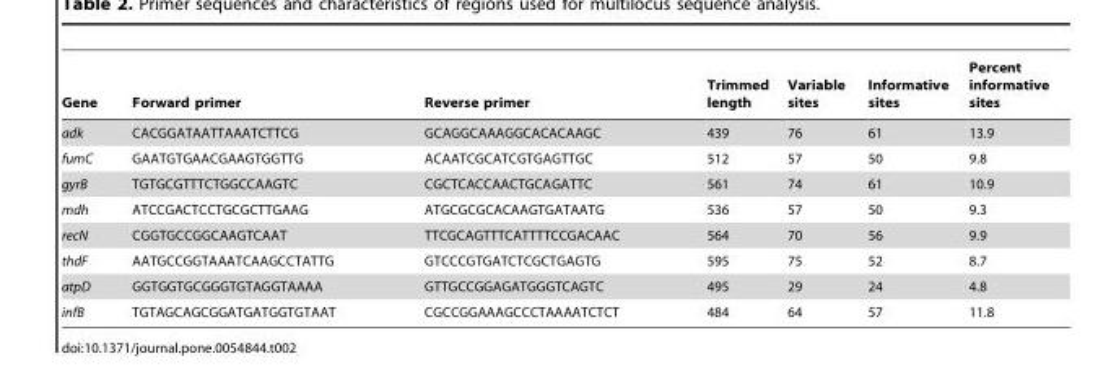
<table><thead><tr><td>Gene</td><td>Forward primer</td><td>Reverse primer</td><td>Trimmed length</td><td>Variable sites</td><td>Informative sites</td><td>Percent informative sites</td></tr></thead><tbody><tr><td>adk</td><td>CACGGATAATTAAATCTTCG</td><td>GCAGGCAAAGGCACACAAGC</td><td>439</td><td>76</td><td>61</td><td>13.9</td></tr><tr><td>fumC</td><td>GAATGTGAACGAAGTGGTTG</td><td>ACAATCGCATCGTGAGTTGC</td><td>512</td><td>57</td><td>50</td><td>9.8</td></tr><tr><td>gyrB</td><td>TGTGCGTTTCTGGCCAAGTC</td><td>CGCTCACCAACTGCAGATTC</td><td>561</td><td>74</td><td>61</td><td>10.9</td></tr><tr><td>mdh</td><td>ATCCGACTCCTGCGCTTGAAG</td><td>ATGCGCGCACAAGTGATAATG</td><td>536</td><td>57</td><td>50</td><td>9.3</td></tr><tr><td>recN</td><td>CGGTGCCGGCAAGTCAAT</td><td>TTCGCAGTTTCATTTTCCGACAAC</td><td>564</td><td>70</td><td>56</td><td>9.9</td></tr><tr><td>thdF</td><td>AATGCCGGTAAATCAAGCCTATTG</td><td>GTCCCGTGATCTCGCTGAGTG</td><td>595</td><td>75</td><td>52</td><td>8.7</td></tr><tr><td>atpD</td><td>GGTGGTGCGGGTGTAGGTAAAA</td><td>GTTGCCGGAGATGGGTCAGTC</td><td>495</td><td>29</td><td>24</td><td>4.8</td></tr><tr><td>infB</td><td>TGTAGCAGCGGATGATGGTGTAAT</td><td>CGCCGGAAAGCCCTAAAATCTCT</td><td>484</td><td>64</td><td>57</td><td>11.8</td></tr></tbody></table>